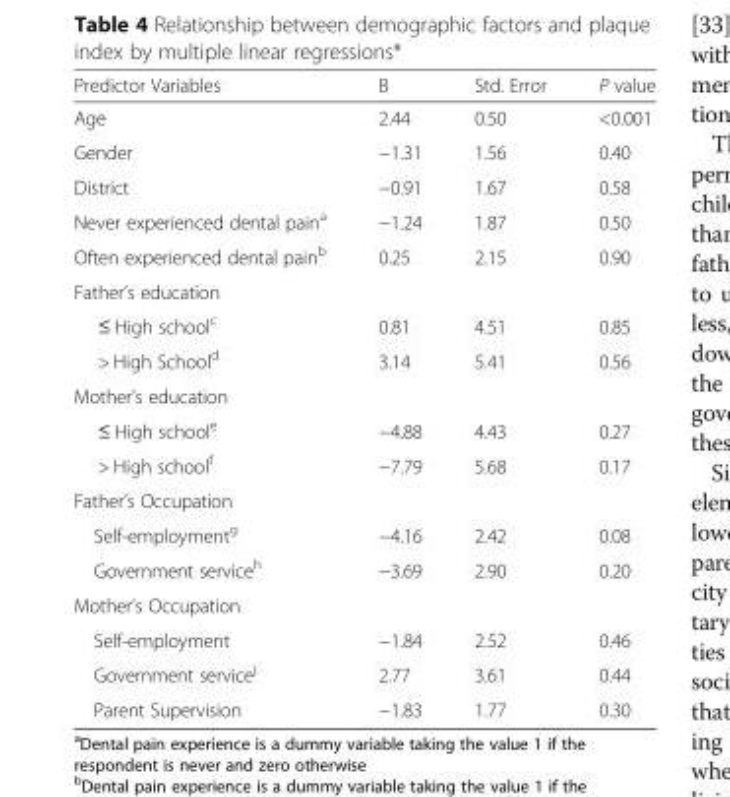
<table><thead><tr><td>Predictor Variables</td><td>B</td><td>Std. Error</td><td>P value</td></tr></thead><tbody><tr><td>Age</td><td>2.44</td><td>0.50</td><td>&lt;0.001</td></tr><tr><td>Gender</td><td>−1.31</td><td>1.56</td><td>0.40</td></tr><tr><td>District</td><td>−0.91</td><td>1.67</td><td>0.58</td></tr><tr><td>Never experienced dental pain<sup>a</sup></td><td>−1.24</td><td>1.87</td><td>0.50</td></tr><tr><td>Often experienced dental pain<sup>b</sup></td><td>0.25</td><td>2.15</td><td>0.90</td></tr><tr><td colspan="4">Father’s education</td></tr><tr><td>≤ High school<sup>c</sup></td><td>0.81</td><td>4.51</td><td>0.85</td></tr><tr><td>&gt; High School<sup>d</sup></td><td>3.14</td><td>5.41</td><td>0.56</td></tr><tr><td colspan="4">Mother’s education</td></tr><tr><td>≤ High school<sup>e</sup></td><td>−4.88</td><td>4.43</td><td>0.27</td></tr><tr><td>&gt; High school<sup>f</sup></td><td>−7.79</td><td>5.68</td><td>0.17</td></tr><tr><td colspan="4">Father’s Occupation</td></tr><tr><td>Self-employment<sup>g</sup></td><td>−4.16</td><td>2.42</td><td>0.08</td></tr><tr><td>Government service<sup>h</sup></td><td>−3.69</td><td>2.90</td><td>0.20</td></tr><tr><td colspan="4">Mother’s Occupation</td></tr><tr><td>Self-employment</td><td>−1.84</td><td>2.52</td><td>0.46</td></tr><tr><td>Government service<sup>j</sup></td><td>2.77</td><td>3.61</td><td>0.44</td></tr><tr><td>Parent Supervision</td><td>−1.83</td><td>1.77</td><td>0.30</td></tr></tbody></table>